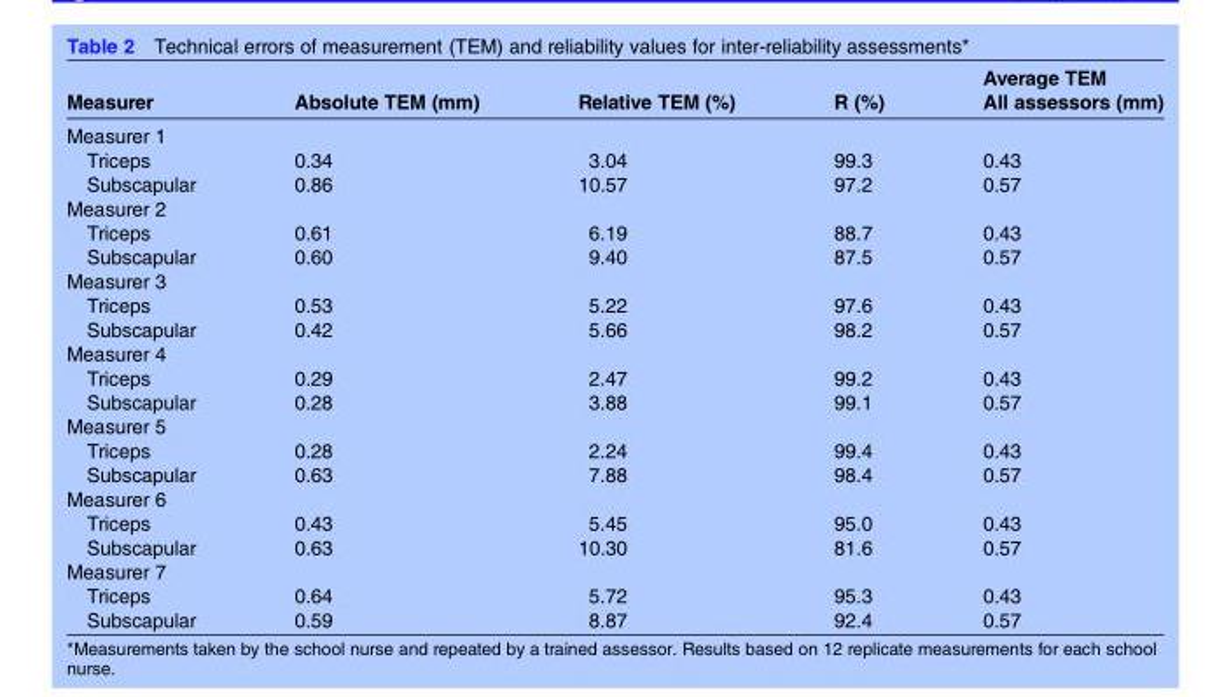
<table><thead><tr><td>Measurer</td><td>Absolute TEM (mm)</td><td>Relative TEM (%)</td><td>R (%)</td><td>Average TEM All assessors (mm)</td></tr></thead><tbody><tr><td colspan="5">Measurer 1</td></tr><tr><td>Triceps</td><td>0.34</td><td>3.04</td><td>99.3</td><td>0.43</td></tr><tr><td>Subscapular</td><td>0.86</td><td>10.57</td><td>97.2</td><td>0.57</td></tr><tr><td colspan="5">Measurer 2</td></tr><tr><td>Triceps</td><td>0.61</td><td>6.19</td><td>88.7</td><td>0.43</td></tr><tr><td>Subscapular</td><td>0.60</td><td>9.40</td><td>87.5</td><td>0.57</td></tr><tr><td colspan="5">Measurer 3</td></tr><tr><td>Triceps</td><td>0.53</td><td>5.22</td><td>97.6</td><td>0.43</td></tr><tr><td>Subscapular</td><td>0.42</td><td>5.66</td><td>98.2</td><td>0.57</td></tr><tr><td colspan="5">Measurer 4</td></tr><tr><td>Triceps</td><td>0.29</td><td>2.47</td><td>99.2</td><td>0.43</td></tr><tr><td>Subscapular</td><td>0.28</td><td>3.88</td><td>99.1</td><td>0.57</td></tr><tr><td colspan="5">Measurer 5</td></tr><tr><td>Triceps</td><td>0.28</td><td>2.24</td><td>99.4</td><td>0.43</td></tr><tr><td>Subscapular</td><td>0.63</td><td>7.88</td><td>98.4</td><td>0.57</td></tr><tr><td colspan="5">Measurer 6</td></tr><tr><td>Triceps</td><td>0.43</td><td>5.45</td><td>95.0</td><td>0.43</td></tr><tr><td>Subscapular</td><td>0.63</td><td>10.30</td><td>81.6</td><td>0.57</td></tr><tr><td colspan="5">Measurer 7</td></tr><tr><td>Triceps</td><td>0.64</td><td>5.72</td><td>95.3</td><td>0.43</td></tr><tr><td>Subscapular</td><td>0.59</td><td>8.87</td><td>92.4</td><td>0.57</td></tr></tbody></table>